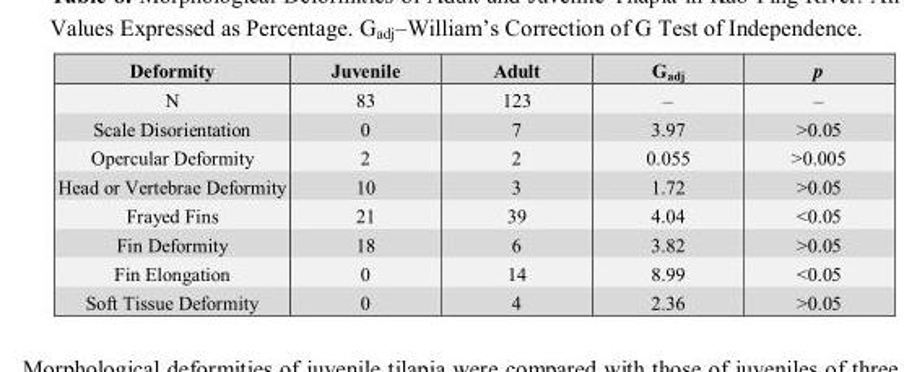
<table><thead><tr><td>Deformity</td><td>Juvenile</td><td>Adult</td><td>G<sub>adj</sub></td><td>p</td></tr></thead><tbody><tr><td>N</td><td>83</td><td>123</td><td>–</td><td>–</td></tr><tr><td>Scale Disorientation</td><td>0</td><td>7</td><td>3.97</td><td>&gt;0.05</td></tr><tr><td>Opercular Deformity</td><td>2</td><td>2</td><td>0.055</td><td>&gt;0.005</td></tr><tr><td>Head or Vertebrae Deformity</td><td>10</td><td>3</td><td>1.72</td><td>&gt;0.05</td></tr><tr><td>Frayed Fins</td><td>21</td><td>39</td><td>4.04</td><td>&lt;0.05</td></tr><tr><td>Fin Deformity</td><td>18</td><td>6</td><td>3.82</td><td>&gt;0.05</td></tr><tr><td>Fin Elongation</td><td>0</td><td>14</td><td>8.99</td><td>&lt;0.05</td></tr><tr><td>Soft Tissue Deformity</td><td>0</td><td>4</td><td>2.36</td><td>&gt;0.05</td></tr></tbody></table>